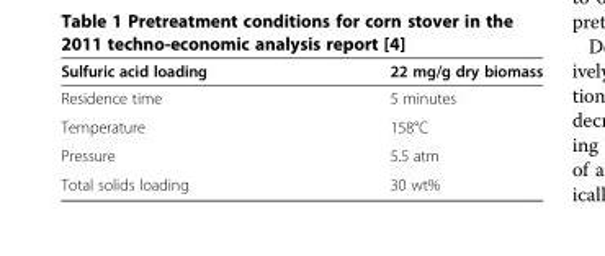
<table><thead><tr><td>Sulfuric acid loading</td><td>22 mg/g dry biomass</td></tr></thead><tbody><tr><td>Residence time</td><td>5 minutes</td></tr><tr><td>Temperature</td><td>158°C</td></tr><tr><td>Pressure</td><td>5.5 atm</td></tr><tr><td>Total solids loading</td><td>30 wt%</td></tr></tbody></table>